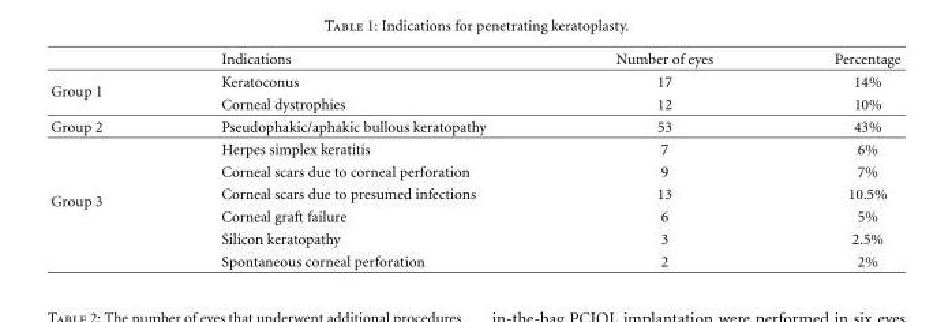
<table><thead><tr><td></td><td>Indications</td><td>Number of eyes</td><td>Percentage</td></tr></thead><tbody><tr><td rowspan="2">Group 1</td><td>Keratoconus</td><td>17</td><td>14%</td></tr><tr><td>Corneal dystrophies</td><td>12</td><td>10%</td></tr><tr><td>Group 2</td><td>Pseudophakic/aphakic bullous keratopathy</td><td>53</td><td>43%</td></tr><tr><td rowspan="6">Group 3</td><td>Herpes simplex keratitis</td><td>7</td><td>6%</td></tr><tr><td>Corneal scars due to corneal perforation</td><td>9</td><td>7%</td></tr><tr><td>Corneal scars due to presumed infections</td><td>13</td><td>10.5%</td></tr><tr><td>Corneal graft failure</td><td>6</td><td>5%</td></tr><tr><td>Silicon keratopathy</td><td>3</td><td>2.5%</td></tr><tr><td>Spontaneous corneal perforation</td><td>2</td><td>2%</td></tr></tbody></table>